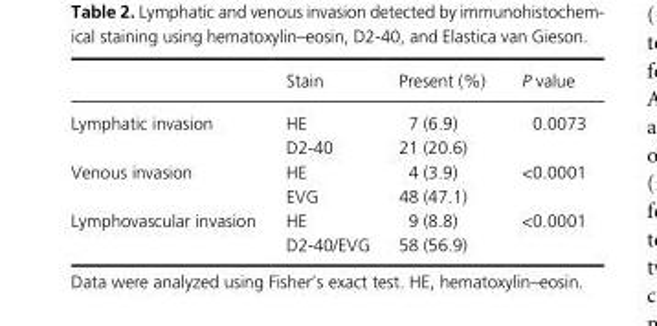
<table><thead><tr><td></td><td>Stain</td><td>Present (%)</td><td>P value</td></tr></thead><tbody><tr><td rowspan="2">Lymphatic invasion</td><td>HE</td><td>7 (6.9)</td><td rowspan="2">0.0073</td></tr><tr><td>D2- 40</td><td>21 (20.6)</td></tr><tr><td rowspan="2">Venous invasion</td><td>HE</td><td>4 (3.9)</td><td rowspan="2">&lt;0.0001</td></tr><tr><td>EVG</td><td>48 (47.1)</td></tr><tr><td rowspan="2">Lymphovascular invasion</td><td>HE</td><td>9 (8.8)</td><td rowspan="2">&lt;0.0001</td></tr><tr><td>D2- 40/EVG</td><td>58 (56.9)</td></tr></tbody></table>